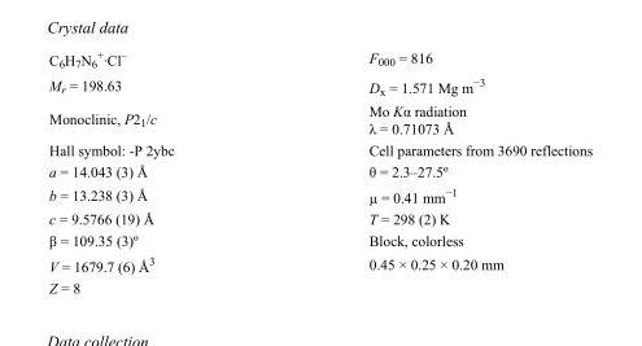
<table><tbody><tr><td>C<sub>6</sub>H<sub>7</sub>N<sub>6</sub> <sup>+</sup>·Cl<sup>–</sup></td><td>F000 = 816</td></tr><tr><td>M<sub>r</sub> = 198.63</td><td>D<sub>x</sub> = 1.571 Mg m<sup>−3</sup></td></tr><tr><td>Monoclinic, P2<sub>1</sub>/c</td><td>Mo Kα radiation λ = 0.71073 Å</td></tr><tr><td>Hall symbol: -P 2ybc</td><td>Cell parameters from 3690 reflections</td></tr><tr><td>a = 14.043 (3) Å</td><td>θ = 2.3–27.5º</td></tr><tr><td>b = 13.238 (3) Å</td><td>µ = 0.41 mm<sup>−1</sup></td></tr><tr><td>c = 9.5766 (19) Å</td><td>T = 298 (2) K</td></tr><tr><td>β = 109.35 (3)º</td><td>Block, colorless</td></tr><tr><td>V = 1679.7 (6) Å<sup>3</sup></td><td>0.45 × 0.25 × 0.20 mm</td></tr><tr><td>Z = 8</td><td></td></tr></tbody></table>